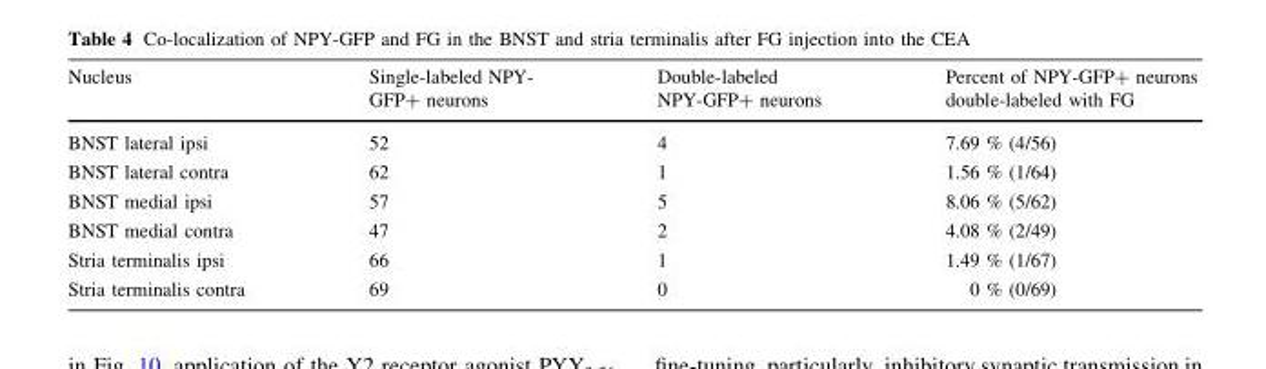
<table><thead><tr><td>Nucleus</td><td>Single-labeled NPY- GFP+ neurons</td><td>Double-labeled NPY-GFP+ neurons</td><td>Percent of NPY-GFP+ neurons double-labeled with FG</td></tr></thead><tbody><tr><td>BNST lateral ipsi</td><td>52</td><td>4</td><td>7.69 % (4/56)</td></tr><tr><td>BNST lateral contra</td><td>62</td><td>1</td><td>1.56 % (1/64)</td></tr><tr><td>BNST medial ipsi</td><td>57</td><td>5</td><td>8.06 % (5/62)</td></tr><tr><td>BNST medial contra</td><td>47</td><td>2</td><td>4.08 % (2/49)</td></tr><tr><td>Stria terminalis ipsi</td><td>66</td><td>1</td><td>1.49 % (1/67)</td></tr><tr><td>Stria terminalis contra</td><td>69</td><td>0</td><td>0 % (0/69)</td></tr></tbody></table>